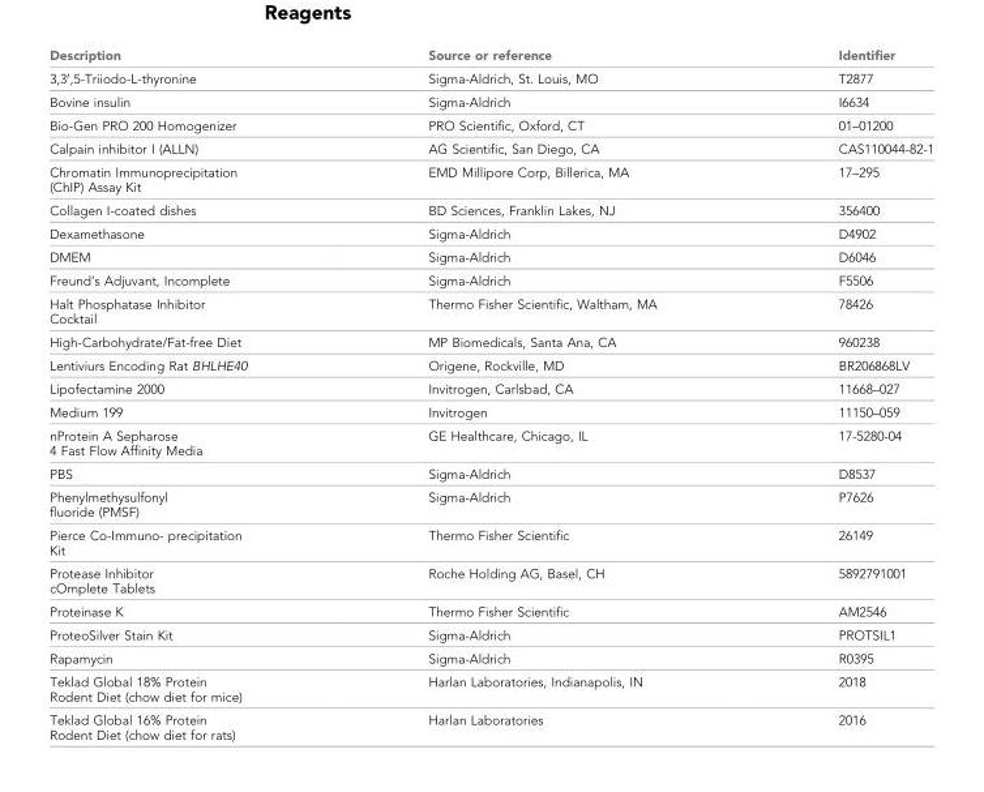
<table><thead><tr><td>Description</td><td>Source or reference</td><td>Identifier</td></tr></thead><tbody><tr><td>3,3′,5-Triiodo-L-thyronine</td><td>Sigma-Aldrich, St. Louis, MO</td><td>T2877</td></tr><tr><td>Bovine insulin</td><td>Sigma-Aldrich</td><td>I6634</td></tr><tr><td>Bio-Gen PRO 200 Homogenizer</td><td>PRO Scientific, Oxford, CT</td><td>01–01200</td></tr><tr><td>Calpain inhibitor I (ALLN)</td><td>AG Scientific, San Diego, CA</td><td>CAS110044-82-1</td></tr><tr><td>Chromatin Immunoprecipitation (ChIP) Assay Kit</td><td>EMD Millipore Corp, Billerica, MA</td><td>17–295</td></tr><tr><td>Collagen I-coated dishes</td><td>BD Sciences, Franklin Lakes, NJ</td><td>356400</td></tr><tr><td>Dexamethasone</td><td>Sigma-Aldrich</td><td>D4902</td></tr><tr><td>DMEM</td><td>Sigma-Aldrich</td><td>D6046</td></tr><tr><td>Freund’s Adjuvant, Incomplete</td><td>Sigma-Aldrich</td><td>F5506</td></tr><tr><td>Halt Phosphatase Inhibitor Cocktail</td><td>Thermo Fisher Scientific, Waltham, MA</td><td>78426</td></tr><tr><td>High-Carbohydrate/Fat-free Diet</td><td>MP Biomedicals, Santa Ana, CA</td><td>960238</td></tr><tr><td>Lentiviurs Encoding Rat BHLHE40</td><td>Origene, Rockville, MD</td><td>BR206868LV</td></tr><tr><td>Lipofectamine 2000</td><td>Invitrogen, Carlsbad, CA</td><td>11668–027</td></tr><tr><td>Medium 199</td><td>Invitrogen</td><td>11150–059</td></tr><tr><td>nProtein A Sepharose 4 Fast Flow Affinity Media</td><td>GE Healthcare, Chicago, IL</td><td>17-5280-04</td></tr><tr><td>PBS</td><td>Sigma-Aldrich</td><td>D8537</td></tr><tr><td>Phenylmethysulfonyl fluoride (PMSF)</td><td>Sigma-Aldrich</td><td>P7626</td></tr><tr><td>Pierce Co-Immuno- precipitation Kit</td><td>Thermo Fisher Scientific</td><td>26149</td></tr><tr><td>Protease Inhibitor cOmplete Tablets</td><td>Roche Holding AG, Basel, CH</td><td>5892791001</td></tr><tr><td>Proteinase K</td><td>Thermo Fisher Scientific</td><td>AM2546</td></tr><tr><td>ProteoSilver Stain Kit</td><td>Sigma-Aldrich</td><td>PROTSIL1</td></tr><tr><td>Rapamycin</td><td>Sigma-Aldrich</td><td>R0395</td></tr><tr><td>Teklad Global 18% Protein Rodent Diet (chow diet for mice)</td><td>Harlan Laboratories, Indianapolis, IN</td><td>2018</td></tr><tr><td>Teklad Global 16% Protein Rodent Diet (chow diet for rats)</td><td>Harlan Laboratories</td><td>2016</td></tr></tbody></table>